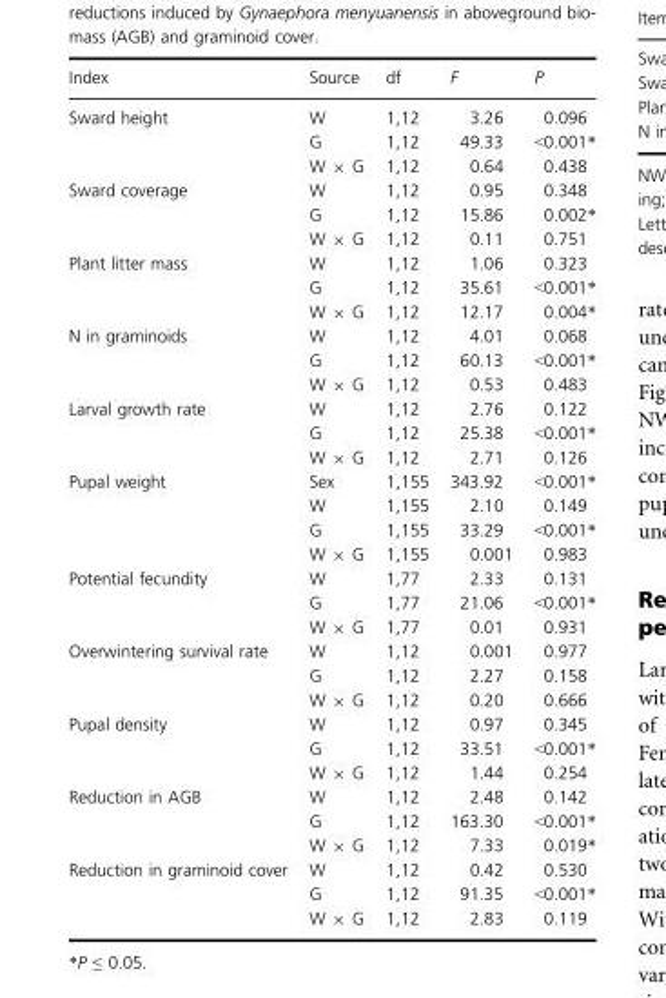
<table><thead><tr><td>Index</td><td>Source</td><td>df</td><td>F</td><td>P</td></tr></thead><tbody><tr><td rowspan="3">Sward height</td><td>W</td><td>1,12</td><td>3.26</td><td>0.096</td></tr><tr><td>G</td><td>1,12</td><td>49.33</td><td>&lt;0.001*</td></tr><tr><td>W × G</td><td>1,12</td><td>0.64</td><td>0.438</td></tr><tr><td rowspan="3">Sward coverage</td><td>W</td><td>1,12</td><td>0.95</td><td>0.348</td></tr><tr><td>G</td><td>1,12</td><td>15.86</td><td>0.002*</td></tr><tr><td>W × G</td><td>1,12</td><td>0.11</td><td>0.751</td></tr><tr><td rowspan="3">Plant litter mass</td><td>W</td><td>1,12</td><td>1.06</td><td>0.323</td></tr><tr><td>G</td><td>1,12</td><td>35.61</td><td>&lt;0.001*</td></tr><tr><td>W × G</td><td>1,12</td><td>12.17</td><td>0.004*</td></tr><tr><td rowspan="3">N in graminoids</td><td>W</td><td>1,12</td><td>4.01</td><td>0.068</td></tr><tr><td>G</td><td>1,12</td><td>60.13</td><td>&lt;0.001*</td></tr><tr><td>W × G</td><td>1,12</td><td>0.53</td><td>0.483</td></tr><tr><td rowspan="3">Larval growth rate</td><td>W</td><td>1,12</td><td>2.76</td><td>0.122</td></tr><tr><td>G</td><td>1,12</td><td>25.38</td><td>&lt;0.001*</td></tr><tr><td>W × G</td><td>1,12</td><td>2.71</td><td>0.126</td></tr><tr><td rowspan="4">Pupal weight</td><td>Sex</td><td>1,155</td><td>343.92</td><td>&lt;0.001*</td></tr><tr><td>W</td><td>1,155</td><td>2.10</td><td>0.149</td></tr><tr><td>G</td><td>1,155</td><td>33.29</td><td>&lt;0.001*</td></tr><tr><td>W × G</td><td>1,155</td><td>0.001</td><td>0.983</td></tr><tr><td rowspan="3">Potential fecundity</td><td>W</td><td>1,77</td><td>2.33</td><td>0.131</td></tr><tr><td>G</td><td>1,77</td><td>21.06</td><td>&lt;0.001*</td></tr><tr><td>W × G</td><td>1,77</td><td>0.01</td><td>0.931</td></tr><tr><td rowspan="3">Overwintering survival rate</td><td>W</td><td>1,12</td><td>0.001</td><td>0.977</td></tr><tr><td>G</td><td>1,12</td><td>2.27</td><td>0.158</td></tr><tr><td>W × G</td><td>1,12</td><td>0.20</td><td>0.666</td></tr><tr><td rowspan="3">Pupal density</td><td>W</td><td>1,12</td><td>0.97</td><td>0.345</td></tr><tr><td>G</td><td>1,12</td><td>33.51</td><td>&lt;0.001*</td></tr><tr><td>W × G</td><td>1,12</td><td>1.44</td><td>0.254</td></tr><tr><td rowspan="3">Reduction in AGB</td><td>W</td><td>1,12</td><td>2.48</td><td>0.142</td></tr><tr><td>G</td><td>1,12</td><td>163.30</td><td>&lt;0.001*</td></tr><tr><td>W × G</td><td>1,12</td><td>7.33</td><td>0.019*</td></tr><tr><td rowspan="3">Reduction in graminoid cover</td><td>W</td><td>1,12</td><td>0.42</td><td>0.530</td></tr><tr><td>G</td><td>1,12</td><td>91.35</td><td>&lt;0.001*</td></tr><tr><td>W × G</td><td>1,12</td><td>2.83</td><td>0.119</td></tr></tbody></table>